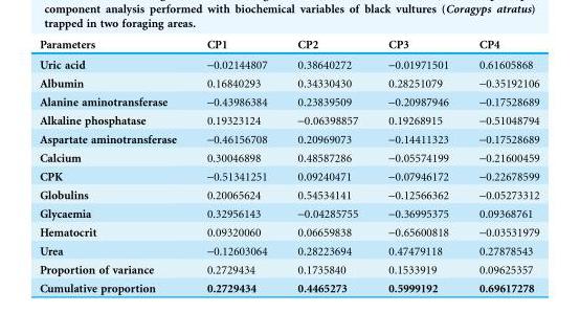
<table><thead><tr><td>Parameters</td><td>CP1</td><td>CP2</td><td>CP3</td><td>CP4</td></tr></thead><tbody><tr><td>Uric acid</td><td>-0.02144807</td><td>0.38640272</td><td>-0.01971501</td><td>0.61605868</td></tr><tr><td>Albumin</td><td>0.16840293</td><td>0.34330430</td><td>0.28251079</td><td>-0.35192106</td></tr><tr><td>Alanine aminotransferase</td><td>-0.43986384</td><td>0.23839509</td><td>-0.20987946</td><td>-0.17528689</td></tr><tr><td>Alkaline phosphatase</td><td>0.19323124</td><td>-0.06398857</td><td>0.19268915</td><td>-0.51048794</td></tr><tr><td>Aspartate aminotransferase</td><td>-0.46156708</td><td>0.20969073</td><td>-0.14411323</td><td>-0.17528689</td></tr><tr><td>Calcium</td><td>0.30046898</td><td>0.48587286</td><td>-0.05574199</td><td>-0.21600459</td></tr><tr><td>CPK</td><td>-0.51341251</td><td>0.09240471</td><td>-0.07946172</td><td>-0.22678599</td></tr><tr><td>Globulins</td><td>0.20065624</td><td>0.54534141</td><td>-0.12566362</td><td>-0.05273312</td></tr><tr><td>Glycaemia</td><td>0.32956143</td><td>-0.04285755</td><td>-0.36995375</td><td>0.09368761</td></tr><tr><td>Hematocrit</td><td>0.09320060</td><td>0.06659838</td><td>-0.65600818</td><td>-0.03531979</td></tr><tr><td>Urea</td><td>-0.12603064</td><td>0.28223694</td><td>0.47479118</td><td>0.27878543</td></tr><tr><td>Proportion of variance</td><td>0.2729434</td><td>0.1735840</td><td>0.1533919</td><td>0.09625357</td></tr><tr><td>Cumulative proportion</td><td>0.2729434</td><td>0.4465273</td><td>0.5999192</td><td>0.69617278</td></tr></tbody></table>